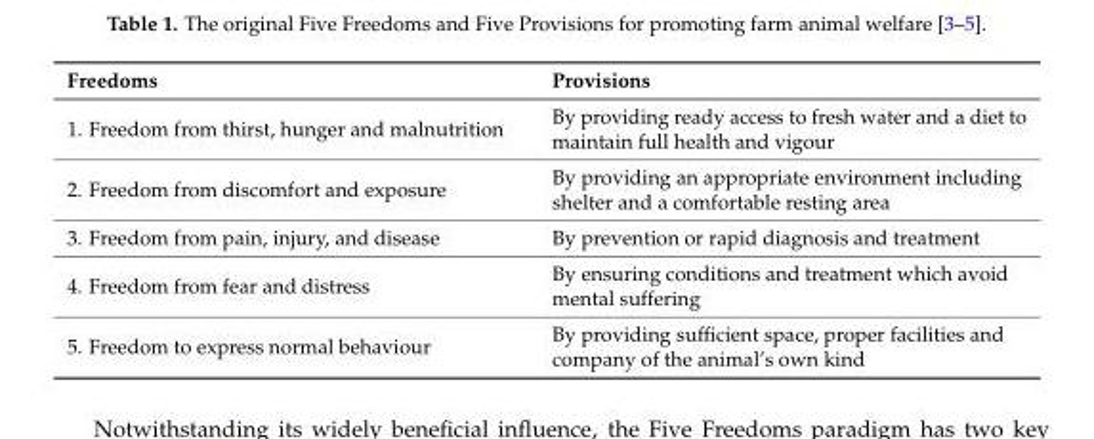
<table><thead><tr><td>Freedoms</td><td>Provisions</td></tr></thead><tbody><tr><td>1. Freedom from thirst, hunger and malnutrition</td><td>By providing ready access to fresh water and a diet to maintain full health and vigour</td></tr><tr><td>2. Freedom from discomfort and exposure</td><td>By providing an appropriate environment including shelter and a comfortable resting area</td></tr><tr><td>3. Freedom from pain, injury, and disease</td><td>By prevention or rapid diagnosis and treatment</td></tr><tr><td>4. Freedom from fear and distress</td><td>By ensuring conditions and treatment which avoid mental suffering</td></tr><tr><td>5. Freedom to express normal behaviour</td><td>By providing sufficient space, proper facilities and company of the animal’s own kind</td></tr></tbody></table>